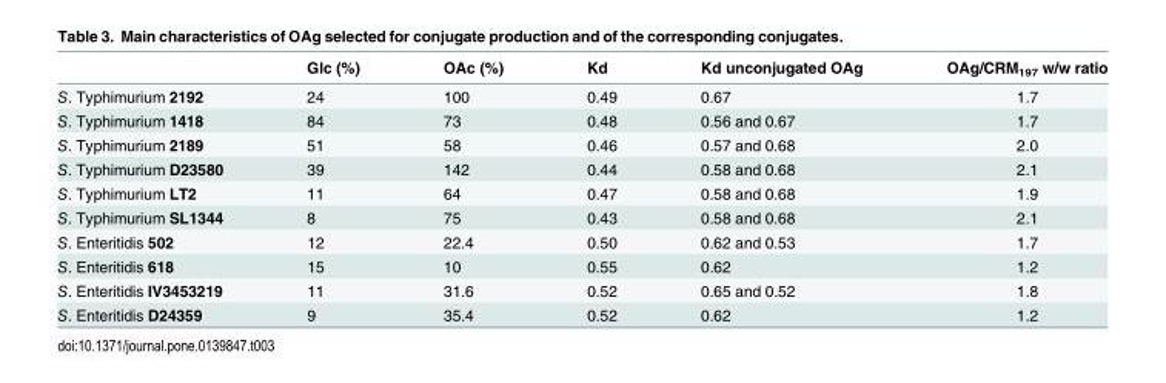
<table><thead><tr><td></td><td>Glc (%)</td><td>OAc (%)</td><td>Kd</td><td>Kd unconjugated OAg</td><td>OAg/CRM<sub>197</sub> w/w ratio</td></tr></thead><tbody><tr><td>S. Typhimurium 2192</td><td>24</td><td>100</td><td>0.49</td><td>0.67</td><td>1.7</td></tr><tr><td>S. Typhimurium 1418</td><td>84</td><td>73</td><td>0.48</td><td>0.56 and 0.67</td><td>1.7</td></tr><tr><td>S. Typhimurium 2189</td><td>51</td><td>58</td><td>0.46</td><td>0.57 and 0.68</td><td>2.0</td></tr><tr><td>S. Typhimurium D23580</td><td>39</td><td>142</td><td>0.44</td><td>0.58 and 0.68</td><td>2.1</td></tr><tr><td>S. Typhimurium LT2</td><td>11</td><td>64</td><td>0.47</td><td>0.58 and 0.68</td><td>1.9</td></tr><tr><td>S. Typhimurium SL1344</td><td>8</td><td>75</td><td>0.43</td><td>0.58 and 0.68</td><td>2.1</td></tr><tr><td>S. Enteritidis 502</td><td>12</td><td>22.4</td><td>0.50</td><td>0.62 and 0.53</td><td>1.7</td></tr><tr><td>S. Enteritidis 618</td><td>15</td><td>10</td><td>0.55</td><td>0.62</td><td>1.2</td></tr><tr><td>S. Enteritidis IV3453219</td><td>11</td><td>31.6</td><td>0.52</td><td>0.65 and 0.52</td><td>1.8</td></tr><tr><td>S. Enteritidis D24359</td><td>9</td><td>35.4</td><td>0.52</td><td>0.62</td><td>1.2</td></tr></tbody></table>